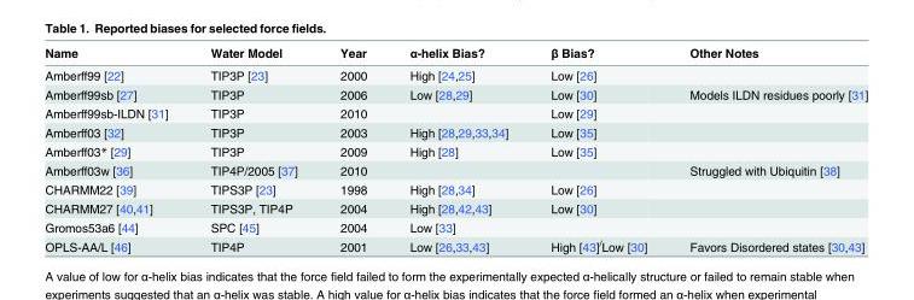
<table><thead><tr><td>Name</td><td>Water Model</td><td>Year</td><td>α-helix Bias?</td><td>β Bias?</td><td>Other Notes</td></tr></thead><tbody><tr><td>Amberff99 [22]</td><td>TIP3P [23]</td><td>2000</td><td>High [24,25]</td><td>Low [26]</td><td></td></tr><tr><td>Amberff99sb [27]</td><td>TIP3P</td><td>2006</td><td>Low [28,29]</td><td>Low [30]</td><td>Models ILDN residues poorly [31]</td></tr><tr><td>Amberff99sb-ILDN [31]</td><td>TIP3P</td><td>2010</td><td></td><td>Low [29]</td><td></td></tr><tr><td>Amberff03 [32]</td><td>TIP3P</td><td>2003</td><td>High [28,29,33,34]</td><td>Low [35]</td><td></td></tr><tr><td>Amberff03* [29]</td><td>TIP3P</td><td>2009</td><td>High [28]</td><td>Low [35]</td><td></td></tr><tr><td>Amberff03w [36]</td><td>TIP4P/2005 [37]</td><td>2010</td><td></td><td></td><td>Struggled with Ubiquitin [38]</td></tr><tr><td>CHARMM22 [39]</td><td>TIPS3P [23]</td><td>1998</td><td>High [28,34]</td><td>Low [26]</td><td></td></tr><tr><td>CHARMM27 [40,41]</td><td>TIPS3P, TIP4P</td><td>2004</td><td>High [28,42,43]</td><td>Low [30]</td><td></td></tr><tr><td>Gromos53a6 [44]</td><td>SPC [45]</td><td>2004</td><td>Low [33]</td><td></td><td></td></tr><tr><td>OPLS-AA/L [46]</td><td>TIP4P</td><td>2001</td><td>Low [26,33,43]</td><td>High [43]<sup>/</sup>Low [30]</td><td>Favors Disordered states [30,43]</td></tr></tbody></table>